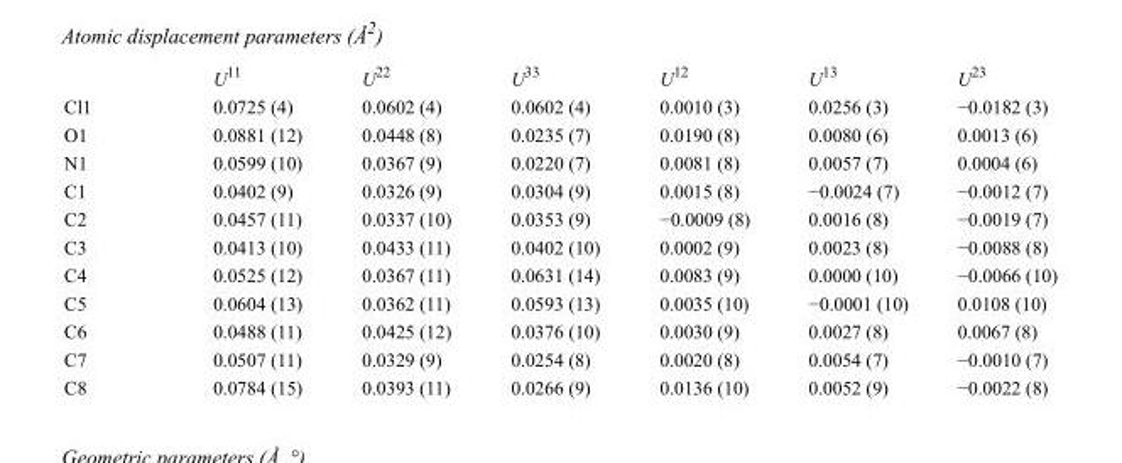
<table><thead><tr><td></td><td>U<sup>11</sup></td><td>U<sup>22</sup></td><td>U<sup>33</sup></td><td>U<sup>12</sup></td><td>U<sup>13</sup></td><td>U<sup>23</sup></td></tr></thead><tbody><tr><td>Cl1</td><td>0.0725 (4)</td><td>0.0602 (4)</td><td>0.0602 (4)</td><td>0.0010 (3)</td><td>0.0256 (3)</td><td>−0.0182 (3)</td></tr><tr><td>O1</td><td>0.0881 (12)</td><td>0.0448 (8)</td><td>0.0235 (7)</td><td>0.0190 (8)</td><td>0.0080 (6)</td><td>0.0013 (6)</td></tr><tr><td>N1</td><td>0.0599 (10)</td><td>0.0367 (9)</td><td>0.0220 (7)</td><td>0.0081 (8)</td><td>0.0057 (7)</td><td>0.0004 (6)</td></tr><tr><td>C1</td><td>0.0402 (9)</td><td>0.0326 (9)</td><td>0.0304 (9)</td><td>0.0015 (8)</td><td>−0.0024 (7)</td><td>−0.0012 (7)</td></tr><tr><td>C2</td><td>0.0457 (11)</td><td>0.0337 (10)</td><td>0.0353 (9)</td><td>−0.0009 (8)</td><td>0.0016 (8)</td><td>−0.0019 (7)</td></tr><tr><td>C3</td><td>0.0413 (10)</td><td>0.0433 (11)</td><td>0.0402 (10)</td><td>0.0002 (9)</td><td>0.0023 (8)</td><td>−0.0088 (8)</td></tr><tr><td>C4</td><td>0.0525 (12)</td><td>0.0367 (11)</td><td>0.0631 (14)</td><td>0.0083 (9)</td><td>0.0000 (10)</td><td>−0.0066 (10)</td></tr><tr><td>C5</td><td>0.0604 (13)</td><td>0.0362 (11)</td><td>0.0593 (13)</td><td>0.0035 (10)</td><td>−0.0001 (10)</td><td>0.0108 (10)</td></tr><tr><td>C6</td><td>0.0488 (11)</td><td>0.0425 (12)</td><td>0.0376 (10)</td><td>0.0030 (9)</td><td>0.0027 (8)</td><td>0.0067 (8)</td></tr><tr><td>C7</td><td>0.0507 (11)</td><td>0.0329 (9)</td><td>0.0254 (8)</td><td>0.0020 (8)</td><td>0.0054 (7)</td><td>−0.0010 (7)</td></tr><tr><td>C8</td><td>0.0784 (15)</td><td>0.0393 (11)</td><td>0.0266 (9)</td><td>0.0136 (10)</td><td>0.0052 (9)</td><td>−0.0022 (8)</td></tr></tbody></table>